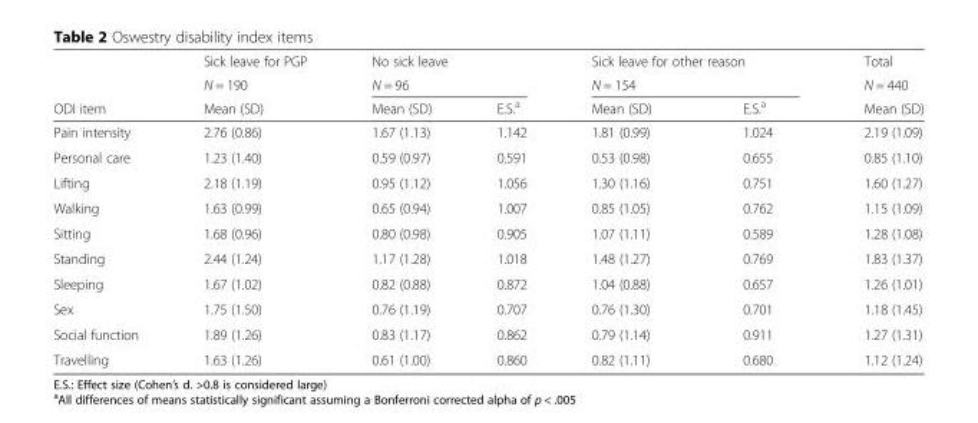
<table><thead><tr><td rowspan="3">ODI item</td><td rowspan="3">Sick leave for PGP N = 190 Mean (SD)</td><td rowspan="2" colspan="2">No sick leave N = 96</td><td rowspan="2" colspan="2">Sick leave for other reason N = 154</td><td rowspan="3">Total N = 440 Mean (SD)</td></tr><tr></tr><tr><td>Mean (SD)</td><td>E.S.<sup>a</sup></td><td>Mean (SD)</td><td>E.S.<sup>a</sup></td></tr></thead><tbody><tr><td>Pain intensity</td><td>2.76 (0.86)</td><td>1.67 (1.13)</td><td>1.142</td><td>1.81 (0.99)</td><td>1.024</td><td>2.19 (1.09)</td></tr><tr><td>Personal care</td><td>1.23 (1.40)</td><td>0.59 (0.97)</td><td>0.591</td><td>0.53 (0.98)</td><td>0.655</td><td>0.85 (1.10)</td></tr><tr><td>Lifting</td><td>2.18 (1.19)</td><td>0.95 (1.12)</td><td>1.056</td><td>1.30 (1.16)</td><td>0.751</td><td>1.60 (1.27)</td></tr><tr><td>Walking</td><td>1.63 (0.99)</td><td>0.65 (0.94)</td><td>1.007</td><td>0.85 (1.05)</td><td>0.762</td><td>1.15 (1.09)</td></tr><tr><td>Sitting</td><td>1.68 (0.96)</td><td>0.80 (0.98)</td><td>0.905</td><td>1.07 (1.11)</td><td>0.589</td><td>1.28 (1.08)</td></tr><tr><td>Standing</td><td>2.44 (1.24)</td><td>1.17 (1.28)</td><td>1.018</td><td>1.48 (1.27)</td><td>0.769</td><td>1.83 (1.37)</td></tr><tr><td>Sleeping</td><td>1.67 (1.02)</td><td>0.82 (0.88)</td><td>0.872</td><td>1.04 (0.88)</td><td>0.657</td><td>1.26 (1.01)</td></tr><tr><td>Sex</td><td>1.75 (1.50)</td><td>0.76 (1.19)</td><td>0.707</td><td>0.76 (1.30)</td><td>0.701</td><td>1.18 (1.45)</td></tr><tr><td>Social function</td><td>1.89 (1.26)</td><td>0.83 (1.17)</td><td>0.862</td><td>0.79 (1.14)</td><td>0.911</td><td>1.27 (1.31)</td></tr><tr><td>Travelling</td><td>1.63 (1.26)</td><td>0.61 (1.00)</td><td>0.860</td><td>0.82 (1.11)</td><td>0.680</td><td>1.12 (1.24)</td></tr></tbody></table>